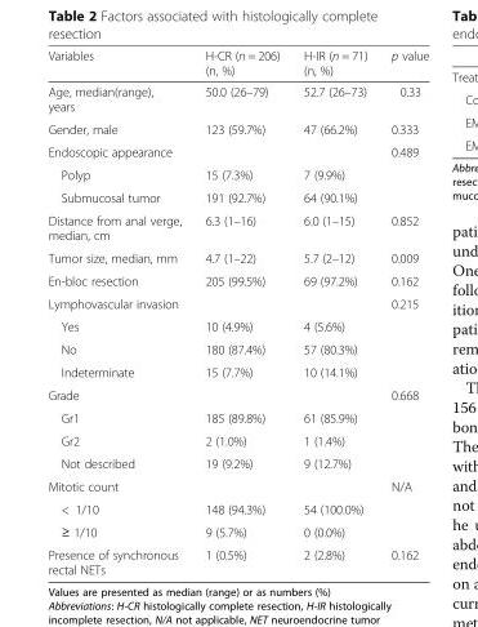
<table><thead><tr><td>Variables</td><td>H-CR (n = 206) (n, %)</td><td>H-IR (n = 71) (n, %)</td><td>p value</td></tr></thead><tbody><tr><td>Age, median(range), years</td><td>50.0 (26–79)</td><td>52.7 (26–73)</td><td>0.33</td></tr><tr><td>Gender, male</td><td>123 (59.7%)</td><td>47 (66.2%)</td><td>0.333</td></tr><tr><td>Endoscopic appearance</td><td></td><td></td><td>0.489</td></tr><tr><td>Polyp</td><td>15 (7.3%)</td><td>7 (9.9%)</td><td></td></tr><tr><td>Submucosal tumor</td><td>191 (92.7%)</td><td>64 (90.1%)</td><td></td></tr><tr><td>Distance from anal verge, median, cm</td><td>6.3 (1–16)</td><td>6.0 (1–15)</td><td>0.852</td></tr><tr><td>Tumor size, median, mm</td><td>4.7 (1–22)</td><td>5.7 (2–12)</td><td>0.009</td></tr><tr><td>En-bloc resection</td><td>205 (99.5%)</td><td>69 (97.2%)</td><td>0.162</td></tr><tr><td>Lymphovascular invasion</td><td></td><td></td><td>0.215</td></tr><tr><td>Yes</td><td>10 (4.9%)</td><td>4 (5.6%)</td><td></td></tr><tr><td>No</td><td>180 (87.4%)</td><td>57 (80.3%)</td><td></td></tr><tr><td>Indeterminate</td><td>15 (7.7%)</td><td>10 (14.1%)</td><td></td></tr><tr><td>Grade</td><td></td><td></td><td>0.668</td></tr><tr><td>Gr1</td><td>185 (89.8%)</td><td>61 (85.9%)</td><td></td></tr><tr><td>Gr2</td><td>2 (1.0%)</td><td>1 (1.4%)</td><td></td></tr><tr><td>Not described</td><td>19 (9.2%)</td><td>9 (12.7%)</td><td></td></tr><tr><td>Mitotic count</td><td></td><td></td><td>N/A</td></tr><tr><td>&lt; 1/10</td><td>148 (94.3%)</td><td>54 (100.0%)</td><td></td></tr><tr><td>≥ 1/10</td><td>9 (5.7%)</td><td>0 (0.0%)</td><td></td></tr><tr><td>Presence of synchronous rectal NETs</td><td>1 (0.5%)</td><td>2 (2.8%)</td><td>0.162</td></tr></tbody></table>